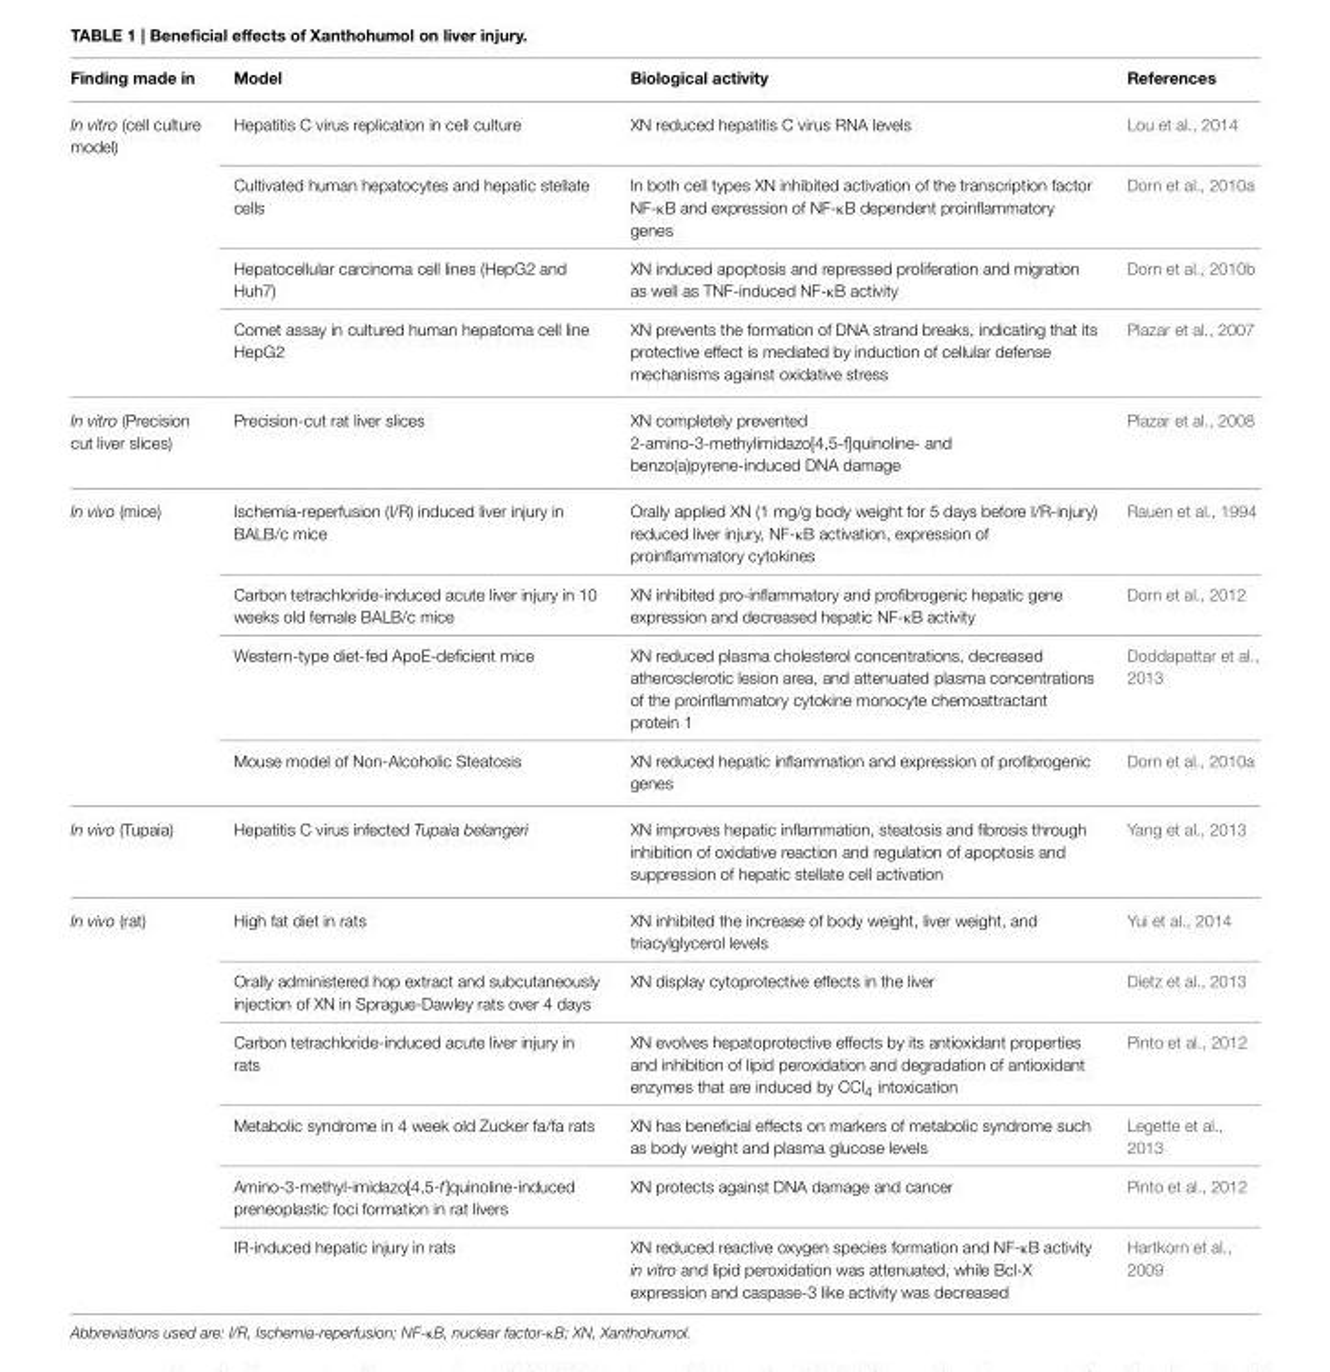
<table><thead><tr><td>Finding made in</td><td>Model</td><td>Biological activity</td><td>References</td></tr></thead><tbody><tr><td rowspan="4">In vitro (cell culture model)</td><td>Hepatitis C virus replication in cell culture</td><td>XN reduced hepatitis C virus RNA levels</td><td>Lou et al., 2014</td></tr><tr><td>Cultivated human hepatocytes and hepatic stellate cells</td><td>In both cell types XN inhibited activation of the transcription factor NF-κB and expression of NF-κB dependent proinflammatory genes</td><td>Dorn et al., 2010a</td></tr><tr><td>Hepatocellular carcinoma cell lines (HepG2 and Huh7)</td><td>XN induced apoptosis and repressed proliferation and migration as well as TNF-induced NF-κB activity</td><td>Dorn et al., 2010b</td></tr><tr><td>Comet assay in cultured human hepatoma cell line HepG2</td><td>XN prevents the formation of DNA strand breaks, indicating that its protective effect is mediated by induction of cellular defense mechanisms against oxidative stress</td><td>Plazar et al., 2007</td></tr><tr><td>In vitro (Precision cut liver slices)</td><td>Precision-cut rat liver slices</td><td>XN completely prevented 2-amino-3-methylimidazo[4,5-f]quinoline- and benzo(a)pyrene-induced DNA damage</td><td>Plazar et al., 2008</td></tr><tr><td rowspan="4">In vivo (mice)</td><td>Ischemia-reperfusion (I/R) induced liver injury in BALB/c mice</td><td>Orally applied XN (1 mg/g body weight for 5 days before I/R-injury) reduced liver injury, NF-κB activation, expression of proinflammatory cytokines</td><td>Rauen et al., 1994</td></tr><tr><td>Carbon tetrachloride-induced acute liver injury in 10 weeks old female BALB/c mice</td><td>XN inhibited pro-inflammatory and profibrogenic hepatic gene expression and decreased hepatic NF-κB activity</td><td>Dorn et al., 2012</td></tr><tr><td>Western-type diet-fed ApoE-deficient mice</td><td>XN reduced plasma cholesterol concentrations, decreased atherosclerotic lesion area, and attenuated plasma concentrations of the proinflammatory cytokine monocyte chemoattractant protein 1</td><td>Doddapattar et al., 2013</td></tr><tr><td>Mouse model of Non-Alcoholic Steatosis</td><td>XN reduced hepatic inflammation and expression of profibrogenic genes</td><td>Dorn et al., 2010a</td></tr><tr><td>In vivo (Tupaia)</td><td>Hepatitis C virus infected Tupaia belangeri</td><td>XN improves hepatic inflammation, steatosis and fibrosis through inhibition of oxidative reaction and regulation of apoptosis and suppression of hepatic stellate cell activation</td><td>Yang et al., 2013</td></tr><tr><td rowspan="6">In vivo (rat)</td><td>High fat diet in rats</td><td>XN inhibited the increase of body weight, liver weight, and triacylglycerol levels</td><td>Yui et al., 2014</td></tr><tr><td>Orally administered hop extract and subcutaneously injection of XN in Sprague-Dawley rats over 4 days</td><td>XN display cytoprotective effects in the liver</td><td>Dietz et al., 2013</td></tr><tr><td>Carbon tetrachloride-induced acute liver injury in rats</td><td>XN evolves hepatoprotective effects by its antioxidant properties and inhibition of lipid peroxidation and degradation of antioxidant enzymes that are induced by CCl<sub>4</sub> intoxication</td><td>Pinto et al., 2012</td></tr><tr><td>Metabolic syndrome in 4 week old Zucker fa/fa rats</td><td>XN has beneficial effects on markers of metabolic syndrome such as body weight and plasma glucose levels</td><td>Legette et al., 2013</td></tr><tr><td>Amino-3-methyl-imidazo[4,5-f]quinoline-induced preneoplastic foci formation in rat livers</td><td>XN protects against DNA damage and cancer</td><td>Pinto et al., 2012</td></tr><tr><td>IR-induced hepatic injury in rats</td><td>XN reduced reactive oxygen species formation and NF-κB activity in vitro and lipid peroxidation was attenuated, while Bcl-X expression and caspase-3 like activity was decreased</td><td>Hartkorn et al., 2009</td></tr></tbody></table>